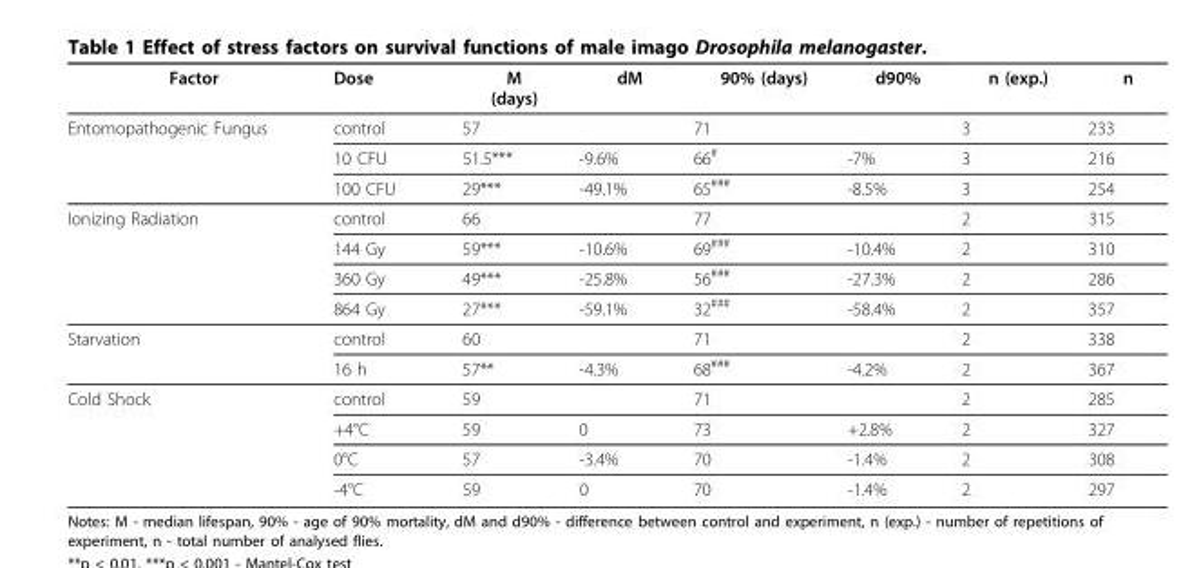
<table><thead><tr><td>Factor</td><td>Dose</td><td>M (days)</td><td>dM</td><td>90% (days)</td><td>d90%</td><td>n (exp.)</td><td>n</td></tr></thead><tbody><tr><td rowspan="3">Entomopathogenic Fungus</td><td>control</td><td>57</td><td></td><td>71</td><td></td><td>3</td><td>233</td></tr><tr><td>10 CFU</td><td>51.5***</td><td>-9.6%</td><td>66<sup>#</sup></td><td>-7%</td><td>3</td><td>216</td></tr><tr><td>100 CFU</td><td>29***</td><td>-49.1%</td><td>65<sup>###</sup></td><td>-8.5%</td><td>3</td><td>254</td></tr><tr><td rowspan="4">Ionizing Radiation</td><td>control</td><td>66</td><td></td><td>77</td><td></td><td>2</td><td>315</td></tr><tr><td>144 Gy</td><td>59***</td><td>-10.6%</td><td>69<sup>###</sup></td><td>-10.4%</td><td>2</td><td>310</td></tr><tr><td>360 Gy</td><td>49***</td><td>-25.8%</td><td>56<sup>###</sup></td><td>-27.3%</td><td>2</td><td>286</td></tr><tr><td>864 Gy</td><td>27***</td><td>-59.1%</td><td>32<sup>###</sup></td><td>-58.4%</td><td>2</td><td>357</td></tr><tr><td rowspan="2">Starvation</td><td>control</td><td>60</td><td></td><td>71</td><td></td><td>2</td><td>338</td></tr><tr><td>16 h</td><td>57**</td><td>-4.3%</td><td>68<sup>###</sup></td><td>-4.2%</td><td>2</td><td>367</td></tr><tr><td rowspan="4">Cold Shock</td><td>control</td><td>59</td><td></td><td>71</td><td></td><td>2</td><td>285</td></tr><tr><td>+4°C</td><td>59</td><td>0</td><td>73</td><td>+2.8%</td><td>2</td><td>327</td></tr><tr><td>0°C</td><td>57</td><td>-3.4%</td><td>70</td><td>-1.4%</td><td>2</td><td>308</td></tr><tr><td>-4°C</td><td>59</td><td>0</td><td>70</td><td>-1.4%</td><td>2</td><td>297</td></tr></tbody></table>